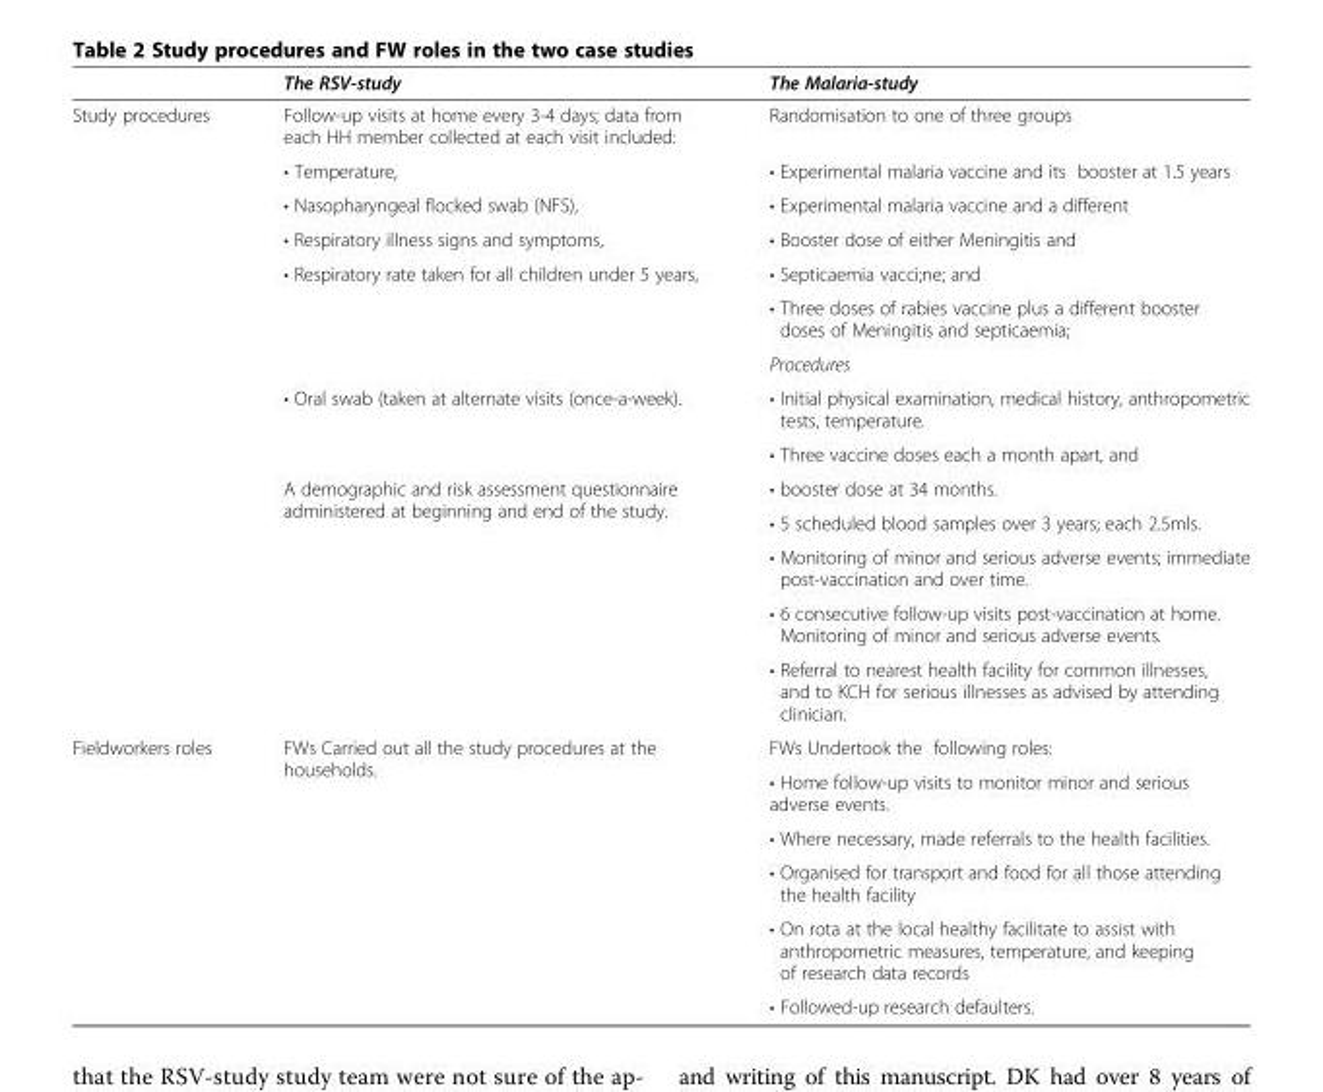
<table><thead><tr><td></td><td>The RSV-study</td><td>The Malaria-study</td></tr></thead><tbody><tr><td rowspan="14">Study procedures</td><td>Follow-up visits at home every 3-4 days; data from each HH member collected at each visit included:</td><td>Randomisation to one of three groups</td></tr><tr><td>• Temperature,</td><td>• Experimental malaria vaccine and its booster at 1.5 years</td></tr><tr><td>• Nasopharyngeal flocked swab (NFS),</td><td>• Experimental malaria vaccine and a different</td></tr><tr><td>• Respiratory illness signs and symptoms,</td><td>• Booster dose of either Meningitis and</td></tr><tr><td rowspan="3">• Respiratory rate taken for all children under 5 years,</td><td>• Septicaemia vacci;ne; and</td></tr><tr><td>• Three doses of rabies vaccine plus a different booster doses of Meningitis and septicaemia;</td></tr><tr><td>Procedures</td></tr><tr><td rowspan="2">• Oral swab (taken at alternate visits (once-a-week).</td><td>• Initial physical examination, medical history, anthropometric tests, temperature.</td></tr><tr><td>• Three vaccine doses each a month apart, and</td></tr><tr><td rowspan="5">A demographic and risk assessment questionnaire administered at beginning and end of the study.</td><td>• booster dose at 34 months.</td></tr><tr><td>• 5 scheduled blood samples over 3 years; each 2.5mls.</td></tr><tr><td>• Monitoring of minor and serious adverse events; immediate post-vaccination and over time.</td></tr><tr><td>• 6 consecutive follow-up visits post-vaccination at home. Monitoring of minor and serious adverse events.</td></tr><tr><td>• Referral to nearest health facility for common illnesses, and to KCH for serious illnesses as advised by attending clinician.</td></tr><tr><td rowspan="6">Fieldworkers roles</td><td rowspan="6">FWs Carried out all the study procedures at the households.</td><td>FWs Undertook the following roles:</td></tr><tr><td>• Home follow-up visits to monitor minor and serious adverse events.</td></tr><tr><td>• Where necessary, made referrals to the health facilities.</td></tr><tr><td>• Organised for transport and food for all those attending the health facility</td></tr><tr><td>• On rota at the local healthy facilitate to assist with anthropometric measures, temperature, and keeping of research data records</td></tr><tr><td>• Followed-up research defaulters.</td></tr></tbody></table>